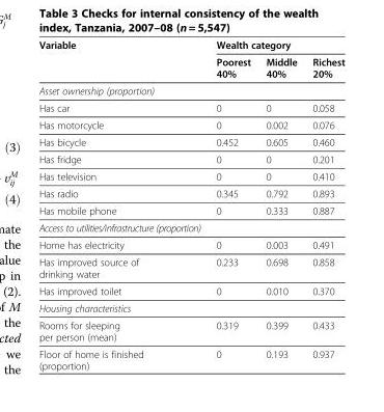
<table><thead><tr><td rowspan="2">Variable</td><td colspan="3">Wealth category</td></tr><tr><td>Poorest 40%</td><td>Middle 40%</td><td>Richest 20%</td></tr></thead><tbody><tr><td colspan="4">Asset ownership (proportion)</td></tr><tr><td>Has car</td><td>0</td><td>0</td><td>0.058</td></tr><tr><td>Has motorcycle</td><td>0</td><td>0.002</td><td>0.076</td></tr><tr><td>Has bicycle</td><td>0.452</td><td>0.605</td><td>0.460</td></tr><tr><td>Has fridge</td><td>0</td><td>0</td><td>0.201</td></tr><tr><td>Has television</td><td>0</td><td>0</td><td>0.410</td></tr><tr><td>Has radio</td><td>0.345</td><td>0.792</td><td>0.893</td></tr><tr><td>Has mobile phone</td><td>0</td><td>0.333</td><td>0.887</td></tr><tr><td colspan="4">Access to utilities/infrastructure (proportion)</td></tr><tr><td>Home has electricity</td><td>0</td><td>0.003</td><td>0.491</td></tr><tr><td>Has improved source of drinking water</td><td>0.233</td><td>0.698</td><td>0.858</td></tr><tr><td>Has improved toilet</td><td>0</td><td>0.010</td><td>0.370</td></tr><tr><td colspan="4">Housing characteristics</td></tr><tr><td>Rooms for sleeping per person (mean)</td><td>0.319</td><td>0.399</td><td>0.433</td></tr><tr><td>Floor of home is finished (proportion)</td><td>0</td><td>0.193</td><td>0.937</td></tr></tbody></table>